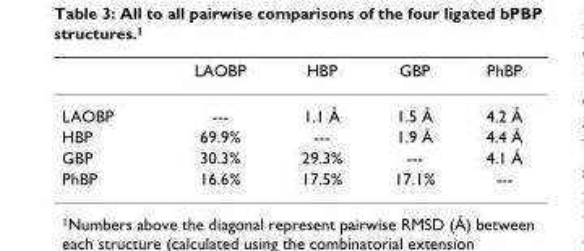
<table><thead><tr><td></td><td>LAOBP</td><td>HBP</td><td>GBP</td><td>PhBP</td></tr></thead><tbody><tr><td>LAOBP</td><td>---</td><td>1.1 Å</td><td>1.5 Å</td><td>4.2 Å</td></tr><tr><td>HBP</td><td>69.9%</td><td>---</td><td>1.9 Å</td><td>4.4 Å</td></tr><tr><td>GBP</td><td>30.3%</td><td>29.3%</td><td>---</td><td>4.1 Å</td></tr><tr><td>PhBP</td><td>16.6%</td><td>17.5%</td><td>17.1%</td><td>---</td></tr></tbody></table>